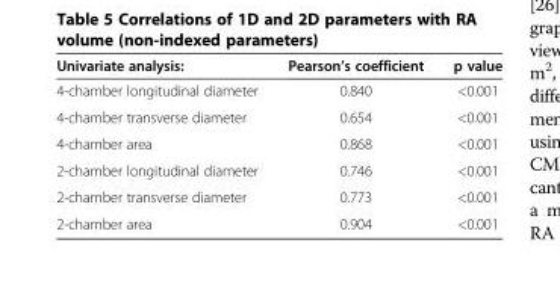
<table><thead><tr><td>Univariate analysis:</td><td>Pearson’s coefficient</td><td>p value</td></tr></thead><tbody><tr><td>4-chamber longitudinal diameter</td><td>0.840</td><td>&lt;0.001</td></tr><tr><td>4-chamber transverse diameter</td><td>0.654</td><td>&lt;0.001</td></tr><tr><td>4-chamber area</td><td>0.868</td><td>&lt;0.001</td></tr><tr><td>2-chamber longitudinal diameter</td><td>0.746</td><td>&lt;0.001</td></tr><tr><td>2-chamber transverse diameter</td><td>0.773</td><td>&lt;0.001</td></tr><tr><td>2-chamber area</td><td>0.904</td><td>&lt;0.001</td></tr></tbody></table>